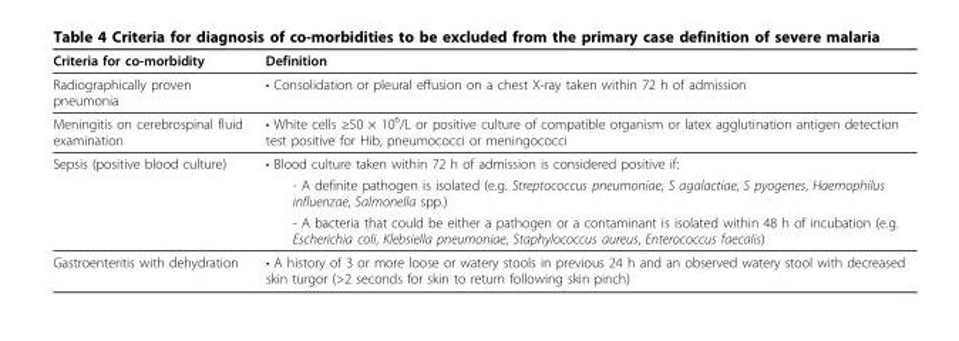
<table><thead><tr><td>Criteria for co-morbidity</td><td>Definition</td></tr></thead><tbody><tr><td>Radiographically proven pneumonia</td><td>• Consolidation or pleural effusion on a chest X-ray taken within 72 h of admission</td></tr><tr><td>Meningitis on cerebrospinal fluid examination</td><td>• White cells ≥50 × 10<sup>6</sup>/L or positive culture of compatible organism or latex agglutination antigen detection test positive for Hib, pneumococci or meningococci</td></tr><tr><td rowspan="3">Sepsis (positive blood culture)</td><td>• Blood culture taken within 72 h of admission is considered positive if:</td></tr><tr><td>- A definite pathogen is isolated (e.g. Streptococcus pneumoniae, S agalactiae, S pyogenes, Haemophilus influenzae, Salmonella spp.)</td></tr><tr><td>- A bacteria that could be either a pathogen or a contaminant is isolated within 48 h of incubation (e.g. Escherichia coli, Klebsiella pneumoniae, Staphylococcus aureus, Enterococcus faecalis)</td></tr><tr><td>Gastroenteritis with dehydration</td><td>• A history of 3 or more loose or watery stools in previous 24 h and an observed watery stool with decreased skin turgor (&gt;2 seconds for skin to return following skin pinch)</td></tr></tbody></table>